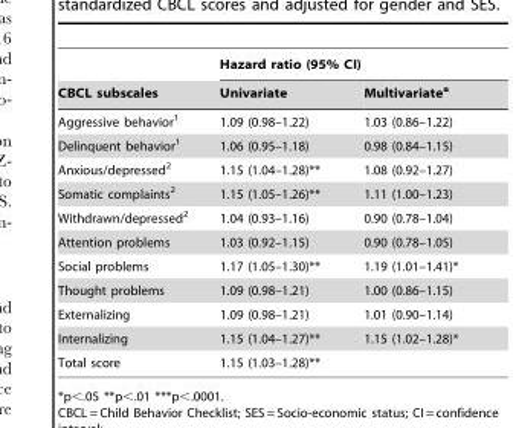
<table><thead><tr><td rowspan="2">CBCL subscales</td><td colspan="2">Hazard ratio (95% CI)</td></tr><tr><td>Univariate</td><td>Multivariate<sup>a</sup></td></tr></thead><tbody><tr><td>Aggressive behavior<sup>1</sup></td><td>1.09 (0.98–1.22)</td><td>1.03 (0.86–1.22)</td></tr><tr><td>Delinquent behavior<sup>1</sup></td><td>1.06 (0.95–1.18)</td><td>0.98 (0.84–1.15)</td></tr><tr><td>Anxious/depressed<sup>2</sup></td><td>1.15 (1.04–1.28)**</td><td>1.08 (0.92–1.27)</td></tr><tr><td>Somatic complaints<sup>2</sup></td><td>1.15 (1.05–1.26)**</td><td>1.11 (1.00–1.23)</td></tr><tr><td>Withdrawn/depressed<sup>2</sup></td><td>1.04 (0.93–1.16)</td><td>0.90 (0.78–1.04)</td></tr><tr><td>Attention problems</td><td>1.03 (0.92–1.15)</td><td>0.90 (0.78–1.05)</td></tr><tr><td>Social problems</td><td>1.17 (1.05–1.30)**</td><td>1.19 (1.01–1.41)*</td></tr><tr><td>Thought problems</td><td>1.09 (0.98–1.21)</td><td>1.00 (0.86–1.15)</td></tr><tr><td>Externalizing</td><td>1.09 (0.98–1.21)</td><td>1.01 (0.90–1.14)</td></tr><tr><td>Internalizing</td><td>1.15 (1.04–1.27)**</td><td>1.15 (1.02–1.28)*</td></tr><tr><td>Total score</td><td>1.15 (1.03–1.28)**</td><td></td></tr></tbody></table>